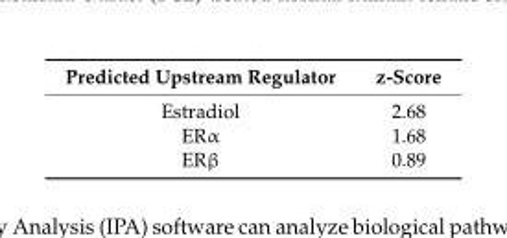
<table><thead><tr><td>Predicted Upstream Regulator</td><td>z-Score</td></tr></thead><tbody><tr><td>Estradiol</td><td>2.68</td></tr><tr><td>ERα</td><td>1.68</td></tr><tr><td>ERβ</td><td>0.89</td></tr></tbody></table>